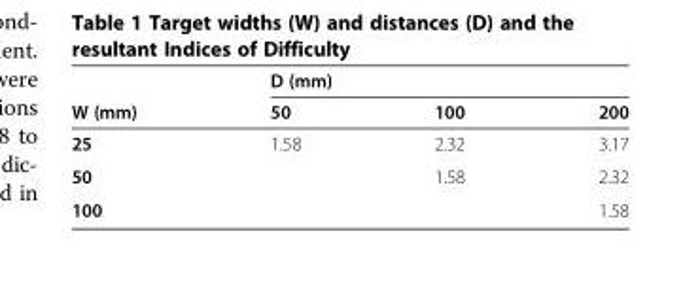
<table><thead><tr><td rowspan="2">W (mm)</td><td colspan="3">D (mm)</td></tr><tr><td>50</td><td>100</td><td>200</td></tr></thead><tbody><tr><td>25</td><td>1.58</td><td>2.32</td><td>3.17</td></tr><tr><td>50</td><td></td><td>1.58</td><td>2.32</td></tr><tr><td>100</td><td></td><td></td><td>1.58</td></tr></tbody></table>